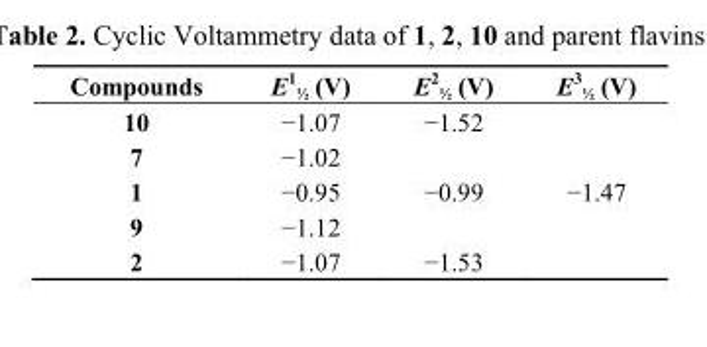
<table><thead><tr><td>Compounds</td><td>E<sup>1</sup> <sub>½</sub> (V)</td><td>E<sup>2</sup> <sub>½</sub> (V)</td><td>E<sup>3</sup> <sub>½</sub> (V)</td></tr></thead><tbody><tr><td>10</td><td>−1.07</td><td>−1.52</td><td></td></tr><tr><td>7</td><td>−1.02</td><td></td><td></td></tr><tr><td>1</td><td>−0.95</td><td>−0.99</td><td>−1.47</td></tr><tr><td>9</td><td>−1.12</td><td></td><td></td></tr><tr><td>2</td><td>−1.07</td><td>−1.53</td><td></td></tr></tbody></table>